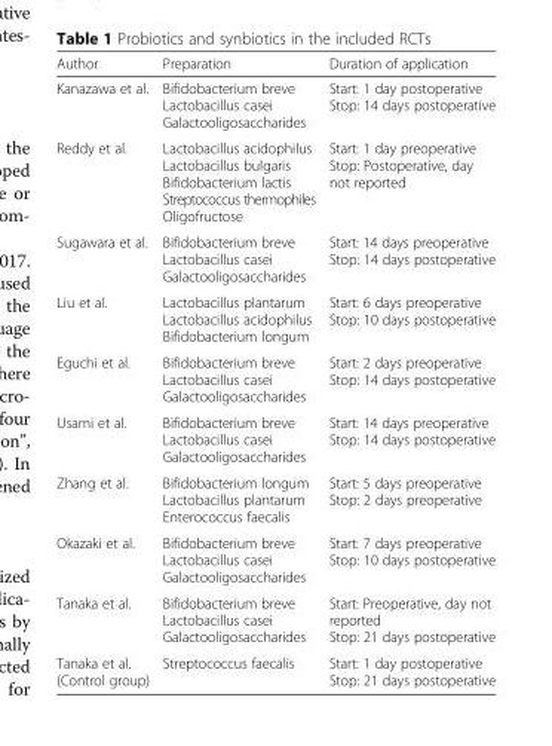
<table><thead><tr><td>Author</td><td>Preparation</td><td>Duration of application</td></tr></thead><tbody><tr><td>Kanazawa et al.</td><td>Bifidobacterium breve Lactobacillus casei Galactooligosaccharides</td><td>Start: 1 day postoperative Stop: 14 days postoperative</td></tr><tr><td>Reddy et al.</td><td>Lactobacillus acidophilus Lactobacillus bulgaris Bifidobacterium lactis Streptococcus thermophiles Oligofructose</td><td>Start: 1 day preoperative Stop: Postoperative, day not reported</td></tr><tr><td>Sugawara et al.</td><td>Bifidobacterium breve Lactobacillus casei Galactooligosaccharides</td><td>Start: 14 days preoperative Stop: 14 days postoperative</td></tr><tr><td>Liu et al.</td><td>Lactobacillus plantarum Lactobacillus acidophilus Bifidobacterium longum</td><td>Start: 6 days preoperative Stop: 10 days postoperative</td></tr><tr><td>Eguchi et al.</td><td>Bifidobacterium breve Lactobacillus casei Galactooligosaccharides</td><td>Start: 2 days preoperative Stop: 14 days postoperative</td></tr><tr><td>Usami et al.</td><td>Bifidobacterium breve Lactobacillus casei Galactooligosaccharides</td><td>Start: 14 days preoperative Stop: 14 days postoperative</td></tr><tr><td>Zhang et al.</td><td>Bifidobacterium longum Lactobacillus plantarum Enterococcus faecalis</td><td>Start: 5 days preoperative Stop: 2 days preoperative</td></tr><tr><td>Okazaki et al.</td><td>Bifidobacterium breve Lactobacillus casei Galactooligosaccharides</td><td>Start: 7 days preoperative Stop: 10 days postoperative</td></tr><tr><td>Tanaka et al.</td><td>Bifidobacterium breve Lactobacillus casei Galactooligosaccharides</td><td>Start: Preoperative, day not reported Stop: 21 days postoperative</td></tr><tr><td>Tanaka et al. (Control group)</td><td>Streptococcus faecalis</td><td>Start: 1 day postoperative Stop: 21 days postoperative</td></tr></tbody></table>